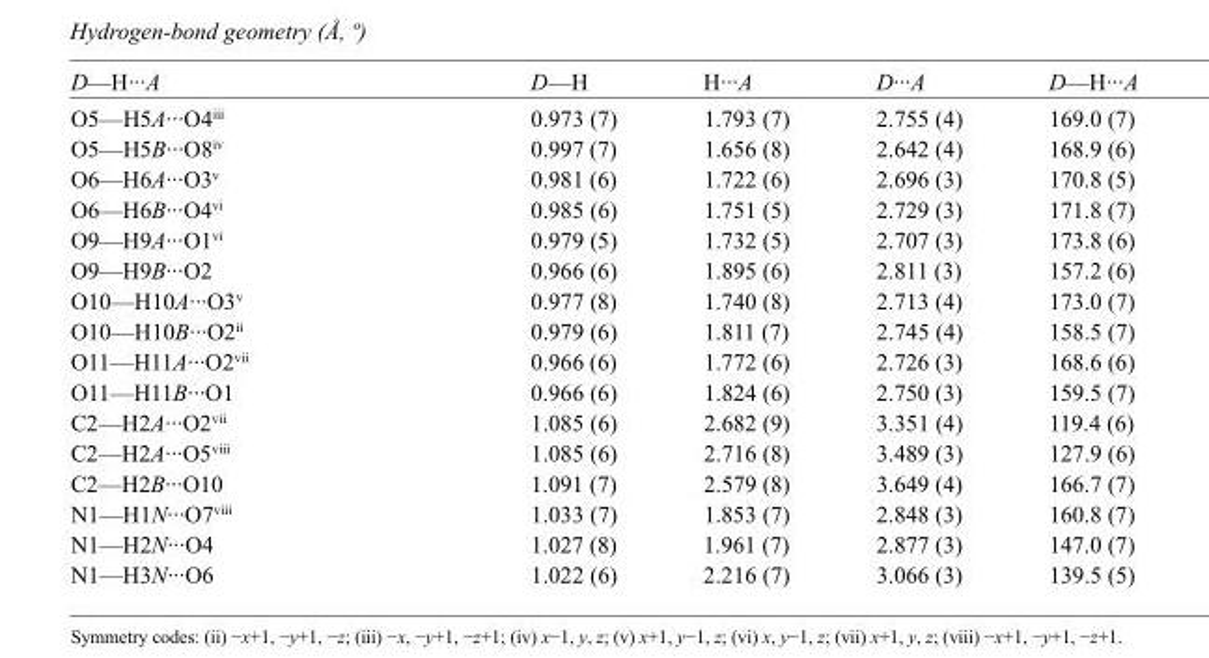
<table><tbody><tr><td>D—H···A</td><td>D—H</td><td>H···A</td><td>D···A</td><td>D—H···A</td></tr><tr><td>O5—H5A···O4<sup>iii</sup></td><td>0.973 (7)</td><td>1.793 (7)</td><td>2.755 (4)</td><td>169.0 (7)</td></tr><tr><td>O5—H5B···O8<sup>iv</sup></td><td>0.997 (7)</td><td>1.656 (8)</td><td>2.642 (4)</td><td>168.9 (6)</td></tr><tr><td>O6—H6A···O3<sup>v</sup></td><td>0.981 (6)</td><td>1.722 (6)</td><td>2.696 (3)</td><td>170.8 (5)</td></tr><tr><td>O6—H6B···O4<sup>vi</sup></td><td>0.985 (6)</td><td>1.751 (5)</td><td>2.729 (3)</td><td>171.8 (7)</td></tr><tr><td>O9—H9A···O1<sup>vi</sup></td><td>0.979 (5)</td><td>1.732 (5)</td><td>2.707 (3)</td><td>173.8 (6)</td></tr><tr><td>O9—H9B···O2</td><td>0.966 (6)</td><td>1.895 (6)</td><td>2.811 (3)</td><td>157.2 (6)</td></tr><tr><td>O10—H10A···O3<sup>v</sup></td><td>0.977 (8)</td><td>1.740 (8)</td><td>2.713 (4)</td><td>173.0 (7)</td></tr><tr><td>O10—H10B···O2<sup>ii</sup></td><td>0.979 (6)</td><td>1.811 (7)</td><td>2.745 (4)</td><td>158.5 (7)</td></tr><tr><td>O11—H11A···O2<sup>vii</sup></td><td>0.966 (6)</td><td>1.772 (6)</td><td>2.726 (3)</td><td>168.6 (6)</td></tr><tr><td>O11—H11B···O1</td><td>0.966 (6)</td><td>1.824 (6)</td><td>2.750 (3)</td><td>159.5 (7)</td></tr><tr><td>C2—H2A···O2<sup>vii</sup></td><td>1.085 (6)</td><td>2.682 (9)</td><td>3.351 (4)</td><td>119.4 (6)</td></tr><tr><td>C2—H2A···O5<sup>viii</sup></td><td>1.085 (6)</td><td>2.716 (8)</td><td>3.489 (3)</td><td>127.9 (6)</td></tr><tr><td>C2—H2B···O10</td><td>1.091 (7)</td><td>2.579 (8)</td><td>3.649 (4)</td><td>166.7 (7)</td></tr><tr><td>N1—H1N···O7<sup>viii</sup></td><td>1.033 (7)</td><td>1.853 (7)</td><td>2.848 (3)</td><td>160.8 (7)</td></tr><tr><td>N1—H2N···O4</td><td>1.027 (8)</td><td>1.961 (7)</td><td>2.877 (3)</td><td>147.0 (7)</td></tr><tr><td>N1—H3N···O6</td><td>1.022 (6)</td><td>2.216 (7)</td><td>3.066 (3)</td><td>139.5 (5)</td></tr></tbody></table>